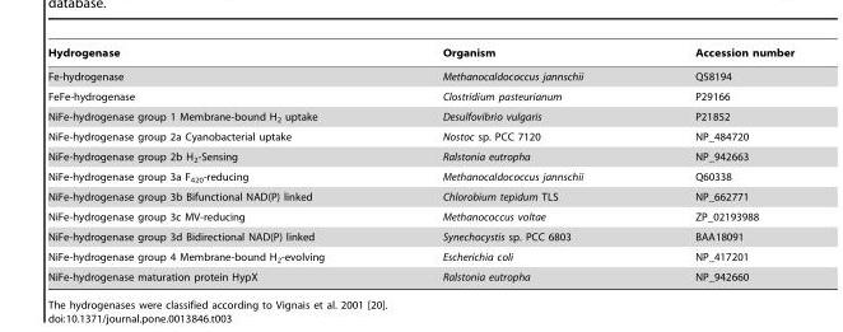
<table><thead><tr><td>Hydrogenase</td><td>Organism</td><td>Accession number</td></tr></thead><tbody><tr><td>Fe-hydrogenase</td><td>Methanocaldococcus jannschii</td><td>Q58194</td></tr><tr><td>FeFe-hydrogenase</td><td>Clostridium pasteurianum</td><td>P29166</td></tr><tr><td>NiFe-hydrogenase group 1 Membrane-bound H<sub>2</sub> uptake</td><td>Desulfovibrio vulgaris</td><td>P21852</td></tr><tr><td>NiFe-hydrogenase group 2a Cyanobacterial uptake</td><td>Nostoc sp. PCC 7120</td><td>NP_484720</td></tr><tr><td>NiFe-hydrogenase group 2b H<sub>2</sub>-Sensing</td><td>Ralstonia eutropha</td><td>NP_942663</td></tr><tr><td>NiFe-hydrogenase group 3a F<sub>420</sub>-reducing</td><td>Methanocaldococcus jannschii</td><td>Q60338</td></tr><tr><td>NiFe-hydrogenase group 3b Bifunctional NAD(P) linked</td><td>Chlorobium tepidum TLS</td><td>NP_662771</td></tr><tr><td>NiFe-hydrogenase group 3c MV-reducing</td><td>Methanococcus voltae</td><td>ZP_02193988</td></tr><tr><td>NiFe-hydrogenase group 3d Bidirectional NAD(P) linked</td><td>Synechocystis sp. PCC 6803</td><td>BAA18091</td></tr><tr><td>NiFe-hydrogenase group 4 Membrane-bound H<sub>2</sub>-evolving</td><td>Escherichia coli</td><td>NP_417201</td></tr><tr><td>NiFe-hydrogenase maturation protein HypX</td><td>Ralstonia eutropha</td><td>NP_942660</td></tr></tbody></table>